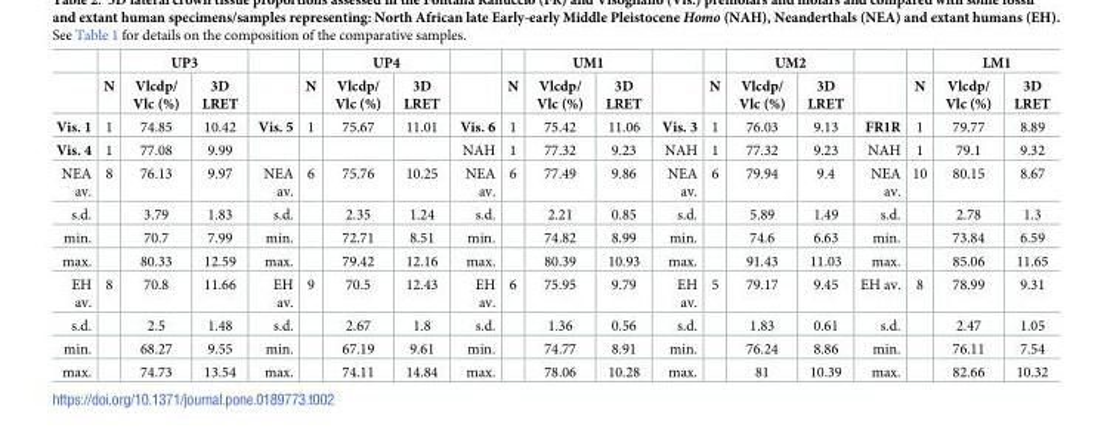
<table><thead><tr><td rowspan="2"></td><td rowspan="2">N</td><td colspan="2">UP3</td><td rowspan="2"></td><td rowspan="2">N</td><td colspan="2">UP4</td><td rowspan="2"></td><td rowspan="2">N</td><td colspan="2">UM1</td><td rowspan="2"></td><td rowspan="2">N</td><td colspan="2">UM2</td><td rowspan="2"></td><td rowspan="2">N</td><td colspan="2">LM1</td></tr><tr><td>Vlcdp/ Vlc (%)</td><td>3D LRET</td><td>Vlcdp/ Vlc (%)</td><td>3D LRET</td><td>Vlcdp/ Vlc (%)</td><td>3D LRET</td><td>Vlcdp/ Vlc (%)</td><td>3D LRET</td><td>Vlcdp/ Vlc (%)</td><td>3D LRET</td></tr></thead><tbody><tr><td>Vis. 1</td><td>1</td><td>74.85</td><td>10.42</td><td>Vis. 5</td><td>1</td><td>75.67</td><td>11.01</td><td>Vis. 6</td><td>1</td><td>75.42</td><td>11.06</td><td>Vis. 3</td><td>1</td><td>76.03</td><td>9.13</td><td>FR1R</td><td>1</td><td>79.77</td><td>8.89</td></tr><tr><td>Vis. 4</td><td>1</td><td>77.08</td><td>9.99</td><td></td><td></td><td></td><td></td><td>NAH</td><td>1</td><td>77.32</td><td>9.23</td><td>NAH</td><td>1</td><td>77.32</td><td>9.23</td><td>NAH</td><td>1</td><td>79.1</td><td>9.32</td></tr><tr><td>NEA av.</td><td>8</td><td>76.13</td><td>9.97</td><td>NEA av.</td><td>6</td><td>75.76</td><td>10.25</td><td>NEA av.</td><td>6</td><td>77.49</td><td>9.86</td><td>NEA av.</td><td>6</td><td>79.94</td><td>9.4</td><td>NEA av.</td><td>10</td><td>80.15</td><td>8.67</td></tr><tr><td>s.d.</td><td></td><td>3.79</td><td>1.83</td><td>s.d.</td><td></td><td>2.35</td><td>1.24</td><td>s.d.</td><td></td><td>2.21</td><td>0.85</td><td>s.d.</td><td></td><td>5.89</td><td>1.49</td><td>s.d.</td><td></td><td>2.78</td><td>1.3</td></tr><tr><td>min.</td><td></td><td>70.7</td><td>7.99</td><td>min.</td><td></td><td>72.71</td><td>8.51</td><td>min.</td><td></td><td>74.82</td><td>8.99</td><td>min.</td><td></td><td>74.6</td><td>6.63</td><td>min.</td><td></td><td>73.84</td><td>6.59</td></tr><tr><td>max.</td><td></td><td>80.33</td><td>12.59</td><td>max.</td><td></td><td>79.42</td><td>12.16</td><td>max.</td><td></td><td>80.39</td><td>10.93</td><td>max.</td><td></td><td>91.43</td><td>11.03</td><td>max.</td><td></td><td>85.06</td><td>11.65</td></tr><tr><td>EH av.</td><td>8</td><td>70.8</td><td>11.66</td><td>EH av.</td><td>9</td><td>70.5</td><td>12.43</td><td>EH av.</td><td>6</td><td>75.95</td><td>9.79</td><td>EH av.</td><td>5</td><td>79.17</td><td>9.45</td><td>EH av.</td><td>8</td><td>78.99</td><td>9.31</td></tr><tr><td>s.d.</td><td></td><td>2.5</td><td>1.48</td><td>s.d.</td><td></td><td>2.67</td><td>1.8</td><td>s.d.</td><td></td><td>1.36</td><td>0.56</td><td>s.d.</td><td></td><td>1.83</td><td>0.61</td><td>s.d.</td><td></td><td>2.47</td><td>1.05</td></tr><tr><td>min.</td><td></td><td>68.27</td><td>9.55</td><td>min.</td><td></td><td>67.19</td><td>9.61</td><td>min.</td><td></td><td>74.77</td><td>8.91</td><td>min.</td><td></td><td>76.24</td><td>8.86</td><td>min.</td><td></td><td>76.11</td><td>7.54</td></tr><tr><td>max.</td><td></td><td>74.73</td><td>13.54</td><td>max.</td><td></td><td>74.11</td><td>14.84</td><td>max.</td><td></td><td>78.06</td><td>10.28</td><td>max.</td><td></td><td>81</td><td>10.39</td><td>max.</td><td></td><td>82.66</td><td>10.32</td></tr></tbody></table>